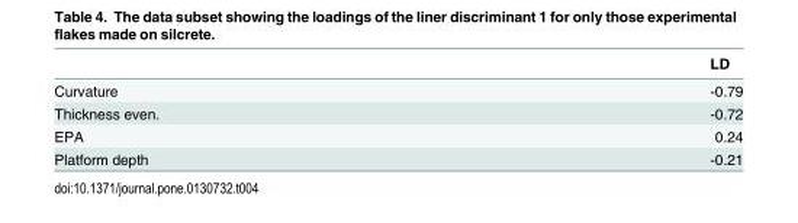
<table><thead><tr><td></td><td>LD</td></tr></thead><tbody><tr><td>Curvature</td><td>-0.79</td></tr><tr><td>Thickness even.</td><td>-0.72</td></tr><tr><td>EPA</td><td>0.24</td></tr><tr><td>Platform depth</td><td>-0.21</td></tr></tbody></table>